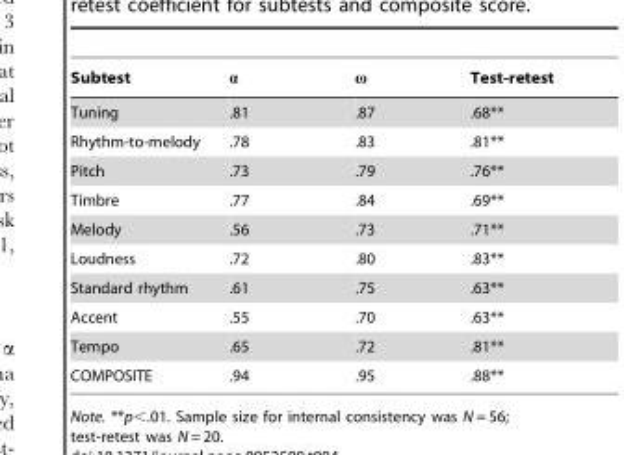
<table><thead><tr><td>Subtest</td><td>α</td><td>ω</td><td>Test-retest</td></tr></thead><tbody><tr><td>Tuning</td><td>.81</td><td>.87</td><td>.68**</td></tr><tr><td>Rhythm-to-melody</td><td>.78</td><td>.83</td><td>.81**</td></tr><tr><td>Pitch</td><td>.73</td><td>.79</td><td>.76**</td></tr><tr><td>Timbre</td><td>.77</td><td>.84</td><td>.69**</td></tr><tr><td>Melody</td><td>.56</td><td>.73</td><td>.71**</td></tr><tr><td>Loudness</td><td>.72</td><td>.80</td><td>.83**</td></tr><tr><td>Standard rhythm</td><td>.61</td><td>.75</td><td>.63**</td></tr><tr><td>Accent</td><td>.55</td><td>.70</td><td>.63**</td></tr><tr><td>Tempo</td><td>.65</td><td>.72</td><td>.81**</td></tr><tr><td>COMPOSITE</td><td>.94</td><td>.95</td><td>.88**</td></tr></tbody></table>